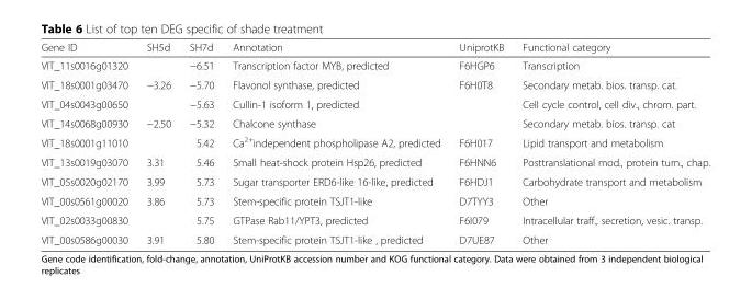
<table><thead><tr><td>Gene ID</td><td>SH5d</td><td>SH7d</td><td>Annotation</td><td>UniprotKB</td><td>Functional category</td></tr></thead><tbody><tr><td>VIT_11s0016g01320</td><td></td><td>−6.51</td><td>Transcription factor MYB, predicted</td><td>F6HGP6</td><td>Transcription</td></tr><tr><td>VIT_18s0001g03470</td><td>−3.26</td><td>−5.70</td><td>Flavonol synthase, predicted</td><td>F6H0T8</td><td>Secondary metab. bios. transp. cat.</td></tr><tr><td>VIT_04s0043g00650</td><td></td><td>−5.63</td><td>Cullin-1 isoform 1, predicted</td><td></td><td>Cell cycle control, cell div., chrom. part.</td></tr><tr><td>VIT_14s0068g00930</td><td>−2.50</td><td>−5.32</td><td>Chalcone synthase</td><td></td><td>Secondary metab. bios. transp. cat</td></tr><tr><td>VIT_18s0001g11010</td><td></td><td>5.42</td><td>Ca<sup>2+</sup>independent phospholipase A2, predicted</td><td>F6H017</td><td>Lipid transport and metabolism</td></tr><tr><td>VIT_13s0019g03070</td><td>3.31</td><td>5.46</td><td>Small heat-shock protein Hsp26, predicted</td><td>F6HNN6</td><td>Posttranslational mod., protein turn., chap.</td></tr><tr><td>VIT_05s0020g02170</td><td>3.99</td><td>5.73</td><td>Sugar transporter ERD6-like 16-like, predicted</td><td>F6HDJ1</td><td>Carbohydrate transport and metabolism</td></tr><tr><td>VIT_00s0561g00020</td><td>3.86</td><td>5.73</td><td>Stem-specific protein TSJT1-like</td><td>D7TYY3</td><td>Other</td></tr><tr><td>VIT_02s0033g00830</td><td></td><td>5.75</td><td>GTPase Rab11/YPT3, predicted</td><td>F6I079</td><td>Intracellular traff., secretion, vesic. transp.</td></tr><tr><td>VIT_00s0586g00030</td><td>3.91</td><td>5.80</td><td>Stem-specific protein TSJT1-like , predicted</td><td>D7UE87</td><td>Other</td></tr></tbody></table>